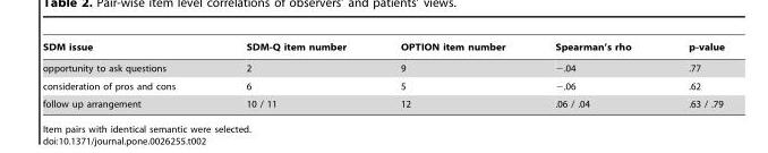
<table><thead><tr><td>SDM issue</td><td>SDM-Q item number</td><td>OPTION item number</td><td>Spearman’s rho</td><td>p-value</td></tr></thead><tbody><tr><td>opportunity to ask questions</td><td>2</td><td>9</td><td>−.04</td><td>.77</td></tr><tr><td>consideration of pros and cons</td><td>6</td><td>5</td><td>−.06</td><td>.62</td></tr><tr><td>follow up arrangement</td><td>10 / 11</td><td>12</td><td>.06 / .04</td><td>.63 / .79</td></tr></tbody></table>